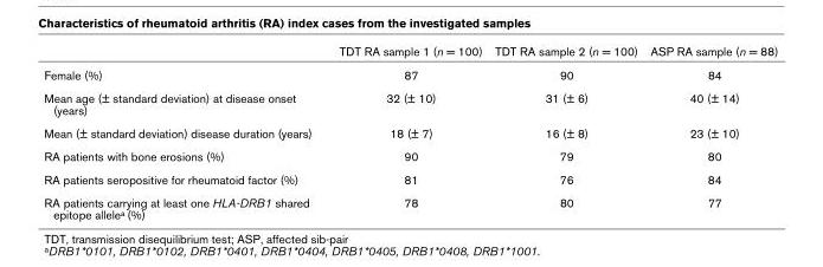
<table><thead><tr><td></td><td>TDT RA sample 1 (n = 100)</td><td>TDT RA sample 2 (n = 100)</td><td>ASP RA sample (n = 88)</td></tr></thead><tbody><tr><td>Female (%)</td><td>87</td><td>90</td><td>84</td></tr><tr><td>Mean age (± standard deviation) at disease onset (years)</td><td>32 (± 10)</td><td>31 (± 6)</td><td>40 (± 14)</td></tr><tr><td>Mean (± standard deviation) disease duration (years)</td><td>18 (± 7)</td><td>16 (± 8)</td><td>23 (± 10)</td></tr><tr><td>RA patients with bone erosions (%)</td><td>90</td><td>79</td><td>80</td></tr><tr><td>RA patients seropositive for rheumatoid factor (%)</td><td>81</td><td>76</td><td>84</td></tr><tr><td>RA patients carrying at least one HLA-DRB1 shared epitope allelea (%)</td><td>78</td><td>80</td><td>77</td></tr></tbody></table>